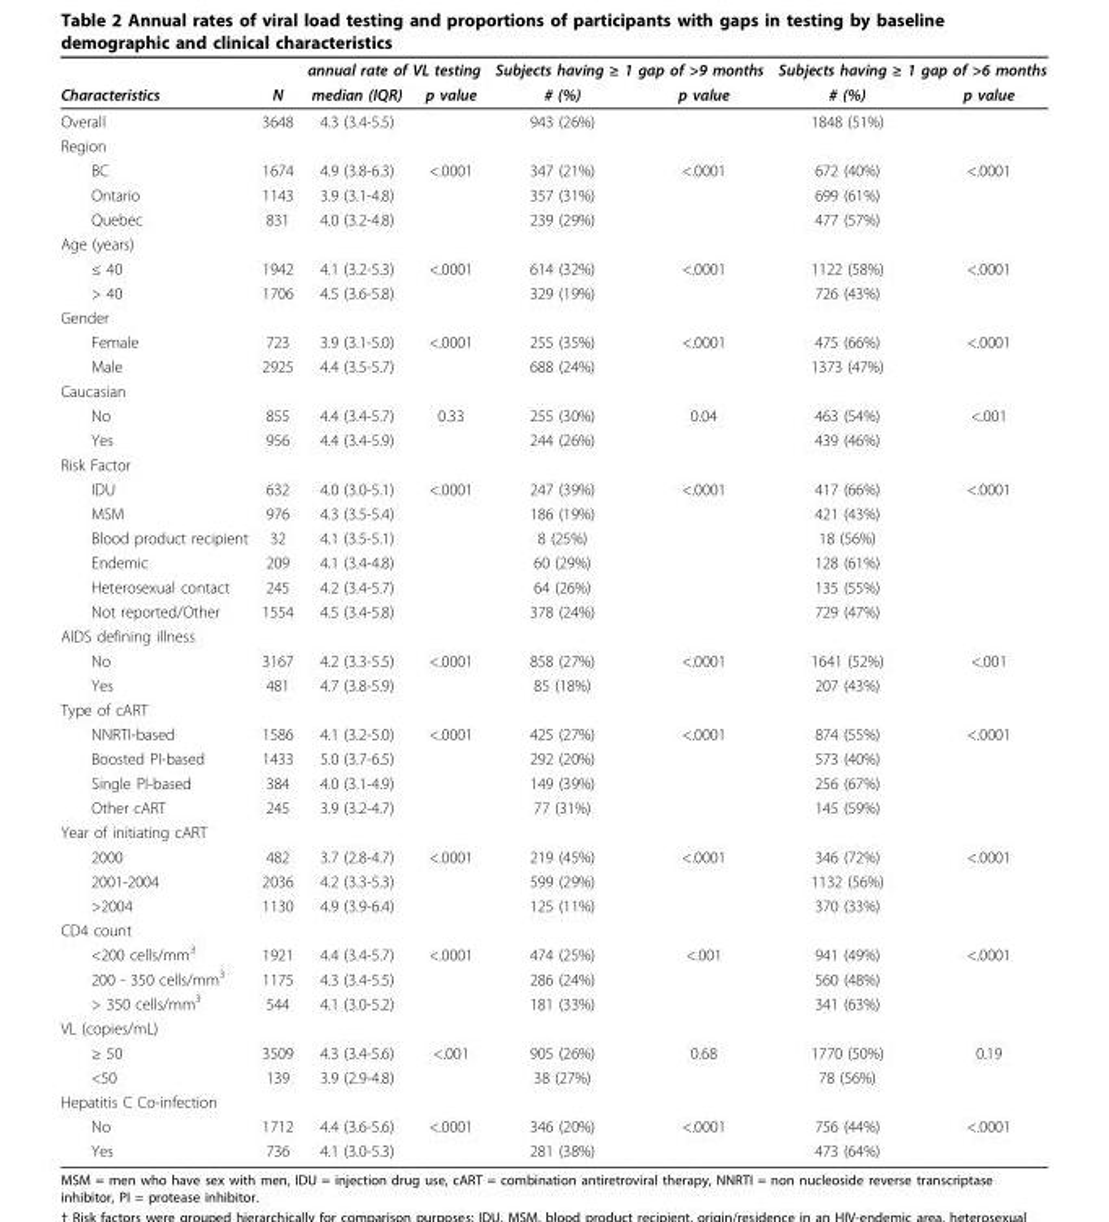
<table><thead><tr><td rowspan="2">Characteristics</td><td rowspan="2">N</td><td colspan="2">annual rate of VL testing</td><td colspan="2">Subjects having ≥ 1 gap of &gt;9 months</td><td colspan="2">Subjects having ≥ 1 gap of &gt;6 months</td></tr><tr><td>median (IQR)</td><td>p value</td><td># (%)</td><td>p value</td><td># (%)</td><td>p value</td></tr></thead><tbody><tr><td>Overall</td><td>3648</td><td>4.3 (3.4-5.5)</td><td></td><td>943 (26%)</td><td></td><td>1848 (51%)</td><td></td></tr><tr><td colspan="8">Region</td></tr><tr><td>BC</td><td>1674</td><td>4.9 (3.8-6.3)</td><td>&lt;.0001</td><td>347 (21%)</td><td>&lt;.0001</td><td>672 (40%)</td><td>&lt;.0001</td></tr><tr><td>Ontario</td><td>1143</td><td>3.9 (3.1-4.8)</td><td></td><td>357 (31%)</td><td></td><td>699 (61%)</td><td></td></tr><tr><td>Quebec</td><td>831</td><td>4.0 (3.2-4.8)</td><td></td><td>239 (29%)</td><td></td><td>477 (57%)</td><td></td></tr><tr><td colspan="8">Age (years)</td></tr><tr><td>≤ 40</td><td>1942</td><td>4.1 (3.2-5.3)</td><td>&lt;.0001</td><td>614 (32%)</td><td>&lt;.0001</td><td>1122 (58%)</td><td>&lt;.0001</td></tr><tr><td>&gt; 40</td><td>1706</td><td>4.5 (3.6-5.8)</td><td></td><td>329 (19%)</td><td></td><td>726 (43%)</td><td></td></tr><tr><td colspan="8">Gender</td></tr><tr><td>Female</td><td>723</td><td>3.9 (3.1-5.0)</td><td>&lt;.0001</td><td>255 (35%)</td><td>&lt;.0001</td><td>475 (66%)</td><td>&lt;.0001</td></tr><tr><td>Male</td><td>2925</td><td>4.4 (3.5-5.7)</td><td></td><td>688 (24%)</td><td></td><td>1373 (47%)</td><td></td></tr><tr><td colspan="8">Caucasian</td></tr><tr><td>No</td><td>855</td><td>4.4 (3.4-5.7)</td><td>0.33</td><td>255 (30%)</td><td>0.04</td><td>463 (54%)</td><td>&lt;.001</td></tr><tr><td>Yes</td><td>956</td><td>4.4 (3.4-5.9)</td><td></td><td>244 (26%)</td><td></td><td>439 (46%)</td><td></td></tr><tr><td colspan="8">Risk Factor</td></tr><tr><td>IDU</td><td>632</td><td>4.0 (3.0-5.1)</td><td>&lt;.0001</td><td>247 (39%)</td><td>&lt;.0001</td><td>417 (66%)</td><td>&lt;.0001</td></tr><tr><td>MSM</td><td>976</td><td>4.3 (3.5-5.4)</td><td></td><td>186 (19%)</td><td></td><td>421 (43%)</td><td></td></tr><tr><td>Blood product recipient</td><td>32</td><td>4.1 (3.5-5.1)</td><td></td><td>8 (25%)</td><td></td><td>18 (56%)</td><td></td></tr><tr><td>Endemic</td><td>209</td><td>4.1 (3.4-4.8)</td><td></td><td>60 (29%)</td><td></td><td>128 (61%)</td><td></td></tr><tr><td>Heterosexual contact</td><td>245</td><td>4.2 (3.4-5.7)</td><td></td><td>64 (26%)</td><td></td><td>135 (55%)</td><td></td></tr><tr><td>Not reported/Other</td><td>1554</td><td>4.5 (3.4-5.8)</td><td></td><td>378 (24%)</td><td></td><td>729 (47%)</td><td></td></tr><tr><td colspan="8">AIDS defining illness</td></tr><tr><td>No</td><td>3167</td><td>4.2 (3.3-5.5)</td><td>&lt;.0001</td><td>858 (27%)</td><td>&lt;.0001</td><td>1641 (52%)</td><td>&lt;.001</td></tr><tr><td>Yes</td><td>481</td><td>4.7 (3.8-5.9)</td><td></td><td>85 (18%)</td><td></td><td>207 (43%)</td><td></td></tr><tr><td colspan="8">Type of cART</td></tr><tr><td>NNRTI-based</td><td>1586</td><td>4.1 (3.2-5.0)</td><td>&lt;.0001</td><td>425 (27%)</td><td>&lt;.0001</td><td>874 (55%)</td><td>&lt;.0001</td></tr><tr><td>Boosted PI-based</td><td>1433</td><td>5.0 (3.7-6.5)</td><td></td><td>292 (20%)</td><td></td><td>573 (40%)</td><td></td></tr><tr><td>Single PI-based</td><td>384</td><td>4.0 (3.1-4.9)</td><td></td><td>149 (39%)</td><td></td><td>256 (67%)</td><td></td></tr><tr><td>Other cART</td><td>245</td><td>3.9 (3.2-4.7)</td><td></td><td>77 (31%)</td><td></td><td>145 (59%)</td><td></td></tr><tr><td colspan="8">Year of initiating cART</td></tr><tr><td>2000</td><td>482</td><td>3.7 (2.8-4.7)</td><td>&lt;.0001</td><td>219 (45%)</td><td>&lt;.0001</td><td>346 (72%)</td><td>&lt;.0001</td></tr><tr><td>2001-2004</td><td>2036</td><td>4.2 (3.3-5.3)</td><td></td><td>599 (29%)</td><td></td><td>1132 (56%)</td><td></td></tr><tr><td>&gt;2004</td><td>1130</td><td>4.9 (3.9-6.4)</td><td></td><td>125 (11%)</td><td></td><td>370 (33%)</td><td></td></tr><tr><td colspan="8">CD4 count</td></tr><tr><td>&lt;200 cells/mm<sup>3</sup></td><td>1921</td><td>4.4 (3.4-5.7)</td><td>&lt;.0001</td><td>474 (25%)</td><td>&lt;.001</td><td>941 (49%)</td><td>&lt;.0001</td></tr><tr><td>200 - 350 cells/mm<sup>3</sup></td><td>1175</td><td>4.3 (3.4-5.5)</td><td></td><td>286 (24%)</td><td></td><td>560 (48%)</td><td></td></tr><tr><td>&gt; 350 cells/mm<sup>3</sup></td><td>544</td><td>4.1 (3.0-5.2)</td><td></td><td>181 (33%)</td><td></td><td>341 (63%)</td><td></td></tr><tr><td colspan="8">VL (copies/mL)</td></tr><tr><td>≥ 50</td><td>3509</td><td>4.3 (3.4-5.6)</td><td>&lt;.001</td><td>905 (26%)</td><td>0.68</td><td>1770 (50%)</td><td>0.19</td></tr><tr><td>&lt;50</td><td>139</td><td>3.9 (2.9-4.8)</td><td></td><td>38 (27%)</td><td></td><td>78 (56%)</td><td></td></tr><tr><td colspan="8">Hepatitis C Co-infection</td></tr><tr><td>No</td><td>1712</td><td>4.4 (3.6-5.6)</td><td>&lt;.0001</td><td>346 (20%)</td><td>&lt;.0001</td><td>756 (44%)</td><td>&lt;.0001</td></tr><tr><td>Yes</td><td>736</td><td>4.1 (3.0-5.3)</td><td></td><td>281 (38%)</td><td></td><td>473 (64%)</td><td></td></tr></tbody></table>